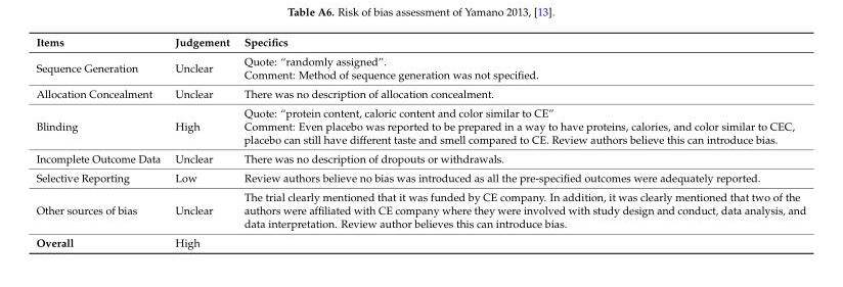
<table><thead><tr><td>Items</td><td>Judgement</td><td>Specifics</td></tr></thead><tbody><tr><td>Sequence Generation</td><td>Unclear</td><td>Quote: “randomly assigned”. Comment: Method of sequence generation was not specified.</td></tr><tr><td>Allocation Concealment</td><td>Unclear</td><td>There was no description of allocation concealment.</td></tr><tr><td>Blinding</td><td>High</td><td>Quote: “protein content, caloric content and color similar to CE” Comment: Even placebo was reported to be prepared in a way to have proteins, calories, and color similar to CEC, placebo can still have different taste and smell compared to CE. Review authors believe this can introduce bias.</td></tr><tr><td>Incomplete Outcome Data</td><td>Unclear</td><td>There was no description of dropouts or withdrawals.</td></tr><tr><td>Selective Reporting</td><td>Low</td><td>Review authors believe no bias was introduced as all the pre-specified outcomes were adequately reported.</td></tr><tr><td>Other sources of bias</td><td>Unclear</td><td>The trial clearly mentioned that it was funded by CE company. In addition, it was clearly mentioned that two of the authors were affiliated with CE company where they were involved with study design and conduct, data analysis, and data interpretation. Review author believes this can introduce bias.</td></tr><tr><td>Overall</td><td>High</td><td></td></tr></tbody></table>